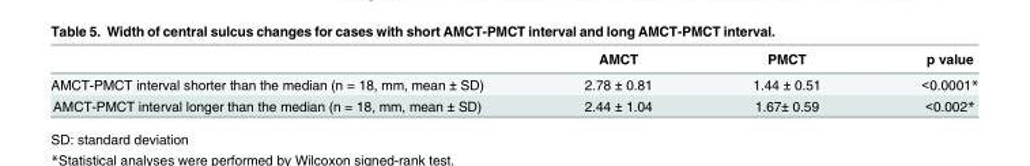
<table><thead><tr><td></td><td>AMCT</td><td>PMCT</td><td>p value</td></tr></thead><tbody><tr><td>AMCT-PMCT interval shorter than the median (n = 18, mm, mean ± SD)</td><td>2.78 ± 0.81</td><td>1.44 ± 0.51</td><td>&lt;0.0001*</td></tr><tr><td>AMCT-PMCT interval longer than the median (n = 18, mm, mean ± SD)</td><td>2.44 ± 1.04</td><td>1.67± 0.59</td><td>&lt;0.002*</td></tr></tbody></table>